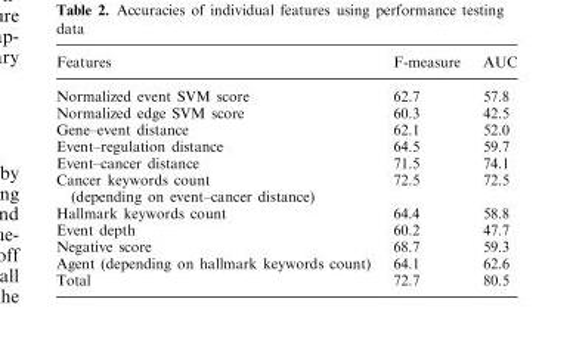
<table><thead><tr><td>Features</td><td>F-measure</td><td>AUC</td></tr></thead><tbody><tr><td>Normalized event SVM score</td><td>62.7</td><td>57.8</td></tr><tr><td>Normalized edge SVM score</td><td>60.3</td><td>42.5</td></tr><tr><td>Gene–event distance</td><td>62.1</td><td>52.0</td></tr><tr><td>Event–regulation distance</td><td>64.5</td><td>59.7</td></tr><tr><td>Event–cancer distance</td><td>71.5</td><td>74.1</td></tr><tr><td>Cancer keywords count (depending on event–cancer distance)</td><td>72.5</td><td>72.5</td></tr><tr><td>Hallmark keywords count</td><td>64.4</td><td>58.8</td></tr><tr><td>Event depth</td><td>60.2</td><td>47.7</td></tr><tr><td>Negative score</td><td>68.7</td><td>59.3</td></tr><tr><td>Agent (depending on hallmark keywords count)</td><td>64.1</td><td>62.6</td></tr><tr><td>Total</td><td>72.7</td><td>80.5</td></tr></tbody></table>